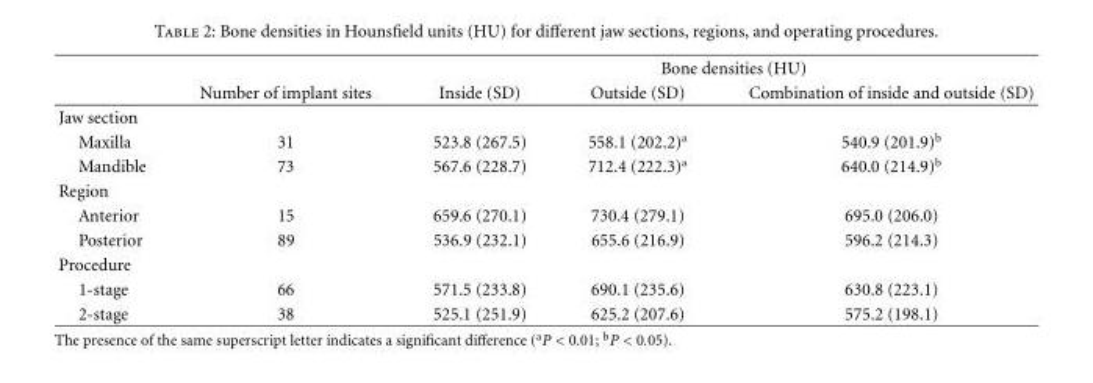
<table><thead><tr><td rowspan="2"></td><td rowspan="2">Number of implant sites</td><td colspan="3">Bone densities (HU)</td></tr><tr><td>Inside (SD)</td><td>Outside (SD)</td><td>Combination of inside and outside (SD)</td></tr></thead><tbody><tr><td colspan="5">Jaw section</td></tr><tr><td>Maxilla</td><td>31</td><td>523.8 (267.5)</td><td>558.1 (202.2)<sup>a</sup></td><td>540.9 (201.9)<sup>b</sup></td></tr><tr><td>Mandible</td><td>73</td><td>567.6 (228.7)</td><td>712.4 (222.3)<sup>a</sup></td><td>640.0 (214.9)<sup>b</sup></td></tr><tr><td colspan="5">Region</td></tr><tr><td>Anterior</td><td>15</td><td>659.6 (270.1)</td><td>730.4 (279.1)</td><td>695.0 (206.0)</td></tr><tr><td>Posterior</td><td>89</td><td>536.9 (232.1)</td><td>655.6 (216.9)</td><td>596.2 (214.3)</td></tr><tr><td colspan="5">Procedure</td></tr><tr><td>1-stage</td><td>66</td><td>571.5 (233.8)</td><td>690.1 (235.6)</td><td>630.8 (223.1)</td></tr><tr><td>2-stage</td><td>38</td><td>525.1 (251.9)</td><td>625.2 (207.6)</td><td>575.2 (198.1)</td></tr></tbody></table>